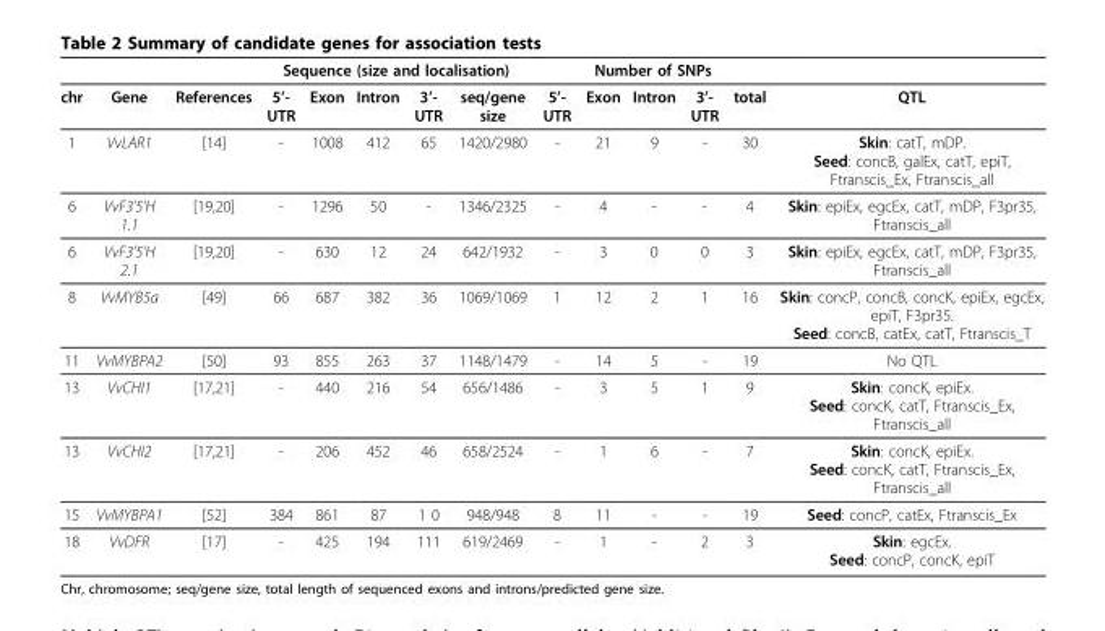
<table><thead><tr><td rowspan="2">chr</td><td rowspan="2">Gene</td><td rowspan="2">References</td><td colspan="5">Sequence (size and localisation)</td><td colspan="5">Number of SNPs</td><td rowspan="2">QTL</td></tr><tr><td>5’- UTR</td><td>Exon</td><td>Intron</td><td>3’- UTR</td><td>seq/gene size</td><td>5’- UTR</td><td>Exon</td><td>Intron</td><td>3’- UTR</td><td>total</td></tr></thead><tbody><tr><td>1</td><td>VvLAR1</td><td>[14]</td><td>-</td><td>1008</td><td>412</td><td>65</td><td>1420/2980</td><td>-</td><td>21</td><td>9</td><td>-</td><td>30</td><td>Skin: catT, mDP. Seed: concB, galEx, catT, epiT, Ftranscis_Ex, Ftranscis_all</td></tr><tr><td>6</td><td>VvF3’5’H 1.1</td><td>[19,20]</td><td>-</td><td>1296</td><td>50</td><td>-</td><td>1346/2325</td><td>-</td><td>4</td><td>-</td><td>-</td><td>4</td><td>Skin: epiEx, egcEx, catT, mDP, F3pr35, Ftranscis_all</td></tr><tr><td>6</td><td>VvF3’5’H 2.1</td><td>[19,20]</td><td>-</td><td>630</td><td>12</td><td>24</td><td>642/1932</td><td>-</td><td>3</td><td>0</td><td>0</td><td>3</td><td>Skin: epiEx, egcEx, catT, mDP, F3pr35, Ftranscis_all</td></tr><tr><td>8</td><td>VvMYB5a</td><td>[49]</td><td>66</td><td>687</td><td>382</td><td>36</td><td>1069/1069</td><td>1</td><td>12</td><td>2</td><td>1</td><td>16</td><td>Skin: concP, concB, concK, epiEx, egcEx, epiT, F3pr35. Seed: concB, catEx, catT, Ftranscis_T</td></tr><tr><td>11</td><td>VvMYBPA2</td><td>[50]</td><td>93</td><td>855</td><td>263</td><td>37</td><td>1148/1479</td><td>-</td><td>14</td><td>5</td><td>-</td><td>19</td><td>No QTL</td></tr><tr><td>13</td><td>VvCHI1</td><td>[17,21]</td><td>-</td><td>440</td><td>216</td><td>54</td><td>656/1486</td><td>-</td><td>3</td><td>5</td><td>1</td><td>9</td><td>Skin: concK, epiEx. Seed: concK, catT, Ftranscis_Ex, Ftranscis_all</td></tr><tr><td>13</td><td>VvCHI2</td><td>[17,21]</td><td>-</td><td>206</td><td>452</td><td>46</td><td>658/2524</td><td>-</td><td>1</td><td>6</td><td>-</td><td>7</td><td>Skin: concK, epiEx. Seed: concK, catT, Ftranscis_Ex, Ftranscis_all</td></tr><tr><td>15</td><td>VvMYBPA1</td><td>[52]</td><td>384</td><td>861</td><td>87</td><td>1 0</td><td>948/948</td><td>8</td><td>11</td><td>-</td><td>-</td><td>19</td><td>Seed: concP, catEx, Ftranscis_Ex</td></tr><tr><td>18</td><td>VvDFR</td><td>[17]</td><td>-</td><td>425</td><td>194</td><td>111</td><td>619/2469</td><td>-</td><td>1</td><td>-</td><td>2</td><td>3</td><td>Skin: egcEx. Seed: concP, concK, epiT</td></tr></tbody></table>